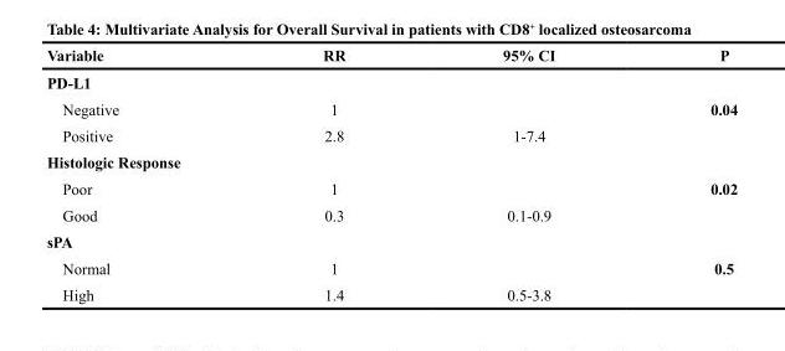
<table><thead><tr><td>Variable</td><td>RR</td><td>95% CI</td><td>P</td></tr></thead><tbody><tr><td colspan="4">PD-L1</td></tr><tr><td>Negative</td><td>1</td><td></td><td>0.04</td></tr><tr><td>Positive</td><td>2.8</td><td>1-7.4</td><td></td></tr><tr><td colspan="4">Histologic Response</td></tr><tr><td>Poor</td><td>1</td><td></td><td>0.02</td></tr><tr><td>Good</td><td>0.3</td><td>0.1-0.9</td><td></td></tr><tr><td colspan="4">sPA</td></tr><tr><td>Normal</td><td>1</td><td></td><td>0.5</td></tr><tr><td>High</td><td>1.4</td><td>0.5-3.8</td><td></td></tr></tbody></table>